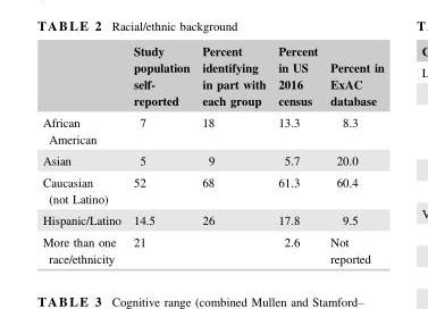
<table><thead><tr><td></td><td>Study population self- reported</td><td>Percent identifying in part with each group</td><td>Percent in US 2016 census</td><td>Percent in ExAC database</td></tr></thead><tbody><tr><td>African American</td><td>7</td><td>18</td><td>13.3</td><td>8.3</td></tr><tr><td>Asian</td><td>5</td><td>9</td><td>5.7</td><td>20.0</td></tr><tr><td>Caucasian (not Latino)</td><td>52</td><td>68</td><td>61.3</td><td>60.4</td></tr><tr><td>Hispanic/Latino</td><td>14.5</td><td>26</td><td>17.8</td><td>9.5</td></tr><tr><td>More than one race/ethnicity</td><td>21</td><td></td><td>2.6</td><td>Not reported</td></tr></tbody></table>